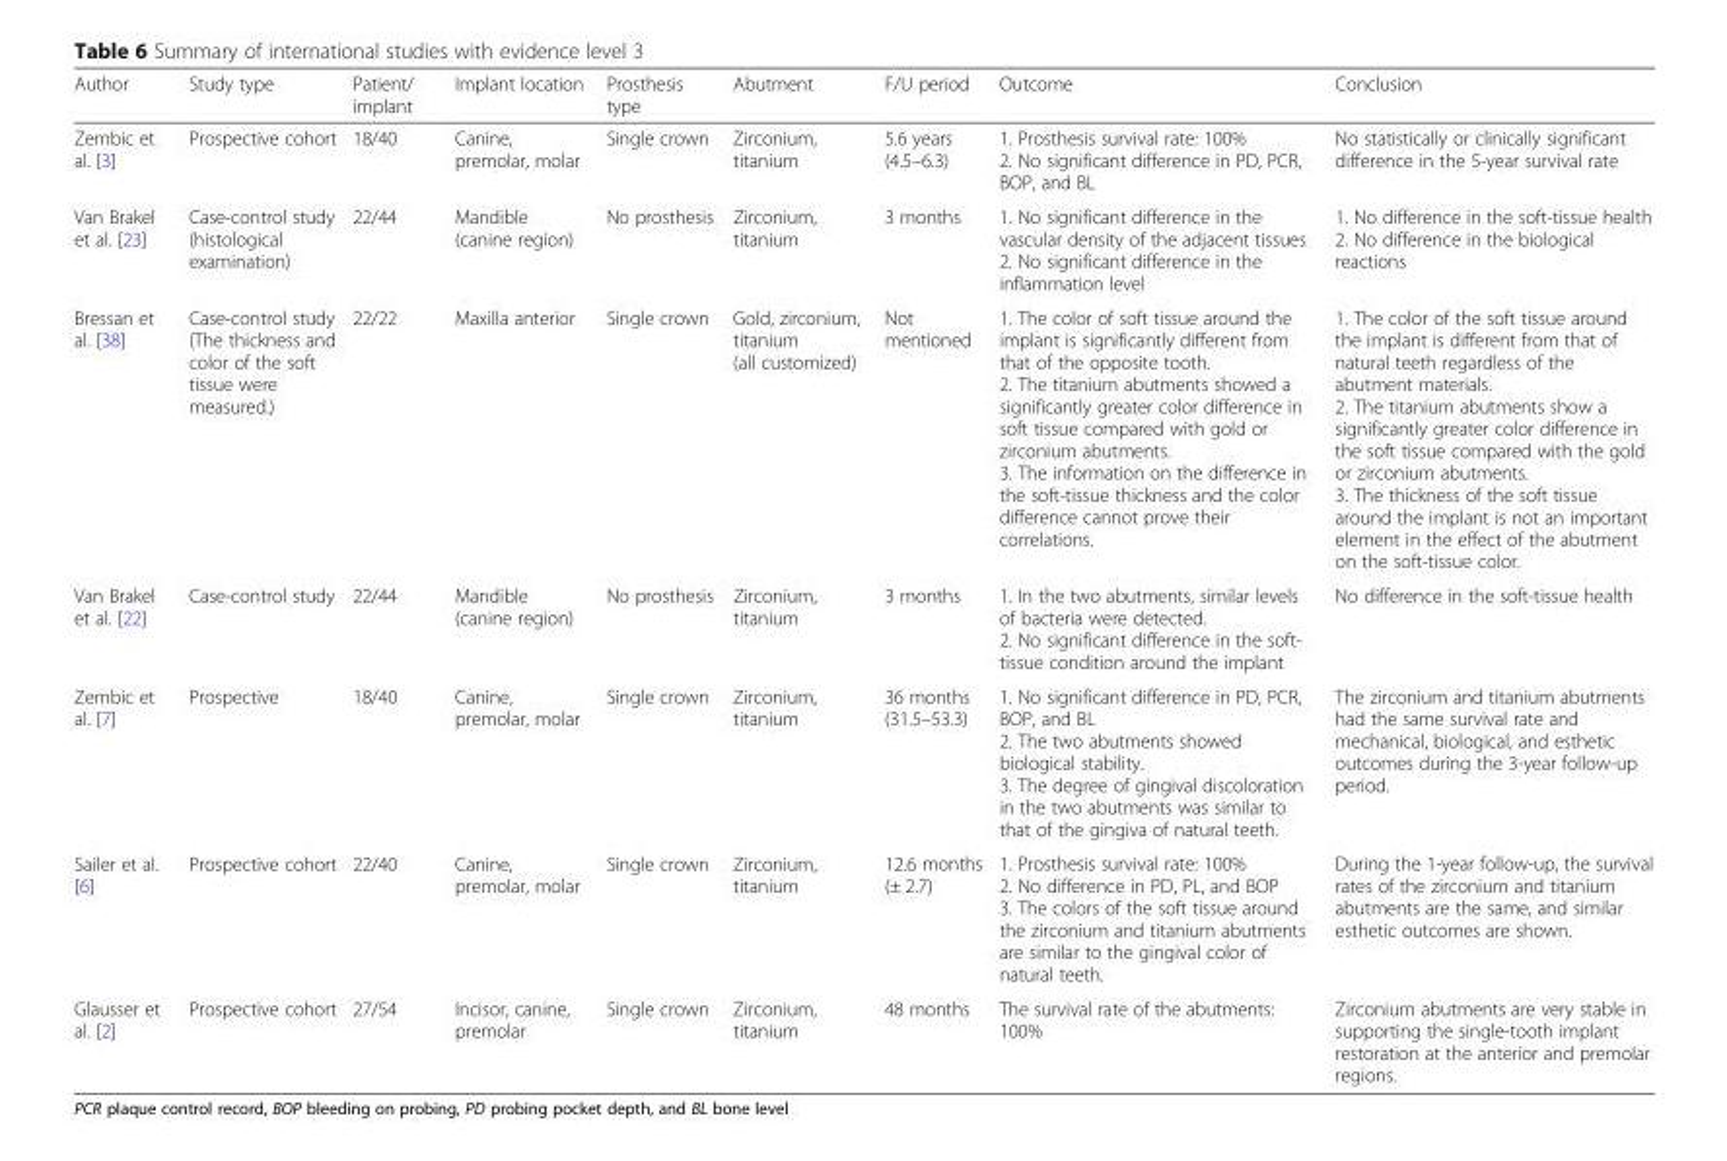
<table><thead><tr><td>Author</td><td>Study type</td><td>Patient/ implant</td><td>Implant location</td><td>Prosthesis type</td><td>Abutment</td><td>F/U period</td><td>Outcome</td><td>Conclusion</td></tr></thead><tbody><tr><td>Zembic et al. [3]</td><td>Prospective cohort</td><td>18/40</td><td>Canine, premolar, molar</td><td>Single crown</td><td>Zirconium, titanium</td><td>5.6 years (4.5–6.3)</td><td>1. Prosthesis survival rate: 100% 2. No significant difference in PD, PCR, BOP, and BL</td><td>No statistically or clinically significant difference in the 5-year survival rate</td></tr><tr><td>Van Brakel et al. [23]</td><td>Case-control study (histological examination)</td><td>22/44</td><td>Mandible (canine region)</td><td>No prosthesis</td><td>Zirconium, titanium</td><td>3 months</td><td>1. No significant difference in the vascular density of the adjacent tissues 2. No significant difference in the inflammation level</td><td>1. No difference in the soft-tissue health 2. No difference in the biological reactions</td></tr><tr><td>Bressan et al. [38]</td><td>Case-control study (The thickness and color of the soft tissue were measured.)</td><td>22/22</td><td>Maxilla anterior</td><td>Single crown</td><td>Gold, zirconium, titanium (all customized)</td><td>Not mentioned</td><td>1. The color of soft tissue around the implant is significantly different from that of the opposite tooth. 2. The titanium abutments showed a significantly greater color difference in soft tissue compared with gold or zirconium abutments. 3. The information on the difference in the soft-tissue thickness and the color difference cannot prove their correlations.</td><td>1. The color of the soft tissue around the implant is different from that of natural teeth regardless of the abutment materials. 2. The titanium abutments show a significantly greater color difference in the soft tissue compared with the gold or zirconium abutments. 3. The thickness of the soft tissue around the implant is not an important element in the effect of the abutment on the soft-tissue color.</td></tr><tr><td>Van Brakel et al. [22]</td><td>Case-control study</td><td>22/44</td><td>Mandible (canine region)</td><td>No prosthesis</td><td>Zirconium, titanium</td><td>3 months</td><td>1. In the two abutments, similar levels of bacteria were detected. 2. No significant difference in the soft- tissue condition around the implant</td><td>No difference in the soft-tissue health</td></tr><tr><td>Zembic et al. [7]</td><td>Prospective</td><td>18/40</td><td>Canine, premolar, molar</td><td>Single crown</td><td>Zirconium, titanium</td><td>36 months (31.5–53.3)</td><td>1. No significant difference in PD, PCR, BOP, and BL 2. The two abutments showed biological stability. 3. The degree of gingival discoloration in the two abutments was similar to that of the gingiva of natural teeth.</td><td>The zirconium and titanium abutments had the same survival rate and mechanical, biological, and esthetic outcomes during the 3-year follow-up period.</td></tr><tr><td>Sailer et al. [6]</td><td>Prospective cohort</td><td>22/40</td><td>Canine, premolar, molar</td><td>Single crown</td><td>Zirconium, titanium</td><td>12.6 months (± 2.7)</td><td>1. Prosthesis survival rate: 100% 2. No difference in PD, PL, and BOP 3. The colors of the soft tissue around the zirconium and titanium abutments are similar to the gingival color of natural teeth.</td><td>During the 1-year follow-up, the survival rates of the zirconium and titanium abutments are the same, and similar esthetic outcomes are shown.</td></tr><tr><td>Glausser et al. [2]</td><td>Prospective cohort</td><td>27/54</td><td>Incisor, canine, premolar</td><td>Single crown</td><td>Zirconium, titanium</td><td>48 months</td><td>The survival rate of the abutments: 100%</td><td>Zirconium abutments are very stable in supporting the single-tooth implant restoration at the anterior and premolar regions.</td></tr></tbody></table>